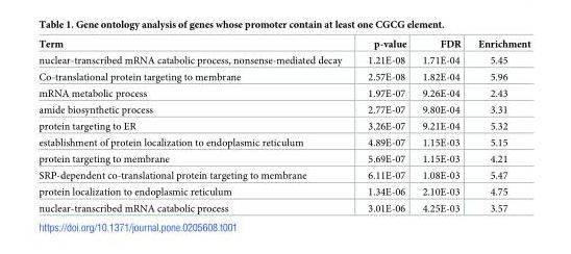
<table><thead><tr><td>Term</td><td>p-value</td><td>FDR</td><td>Enrichment</td></tr></thead><tbody><tr><td>nuclear-transcribed mRNA catabolic process, nonsense-mediated decay</td><td>1.21E-08</td><td>1.71E-04</td><td>5.45</td></tr><tr><td>Co-translational protein targeting to membrane</td><td>2.57E-08</td><td>1.82E-04</td><td>5.96</td></tr><tr><td>mRNA metabolic process</td><td>1.97E-07</td><td>9.26E-04</td><td>2.43</td></tr><tr><td>amide biosynthetic process</td><td>2.77E-07</td><td>9.80E-04</td><td>3.31</td></tr><tr><td>protein targeting to ER</td><td>3.26E-07</td><td>9.21E-04</td><td>5.32</td></tr><tr><td>establishment of protein localization to endoplasmic reticulum</td><td>4.89E-07</td><td>1.15E-03</td><td>5.15</td></tr><tr><td>protein targeting to membrane</td><td>5.69E-07</td><td>1.15E-03</td><td>4.21</td></tr><tr><td>SRP-dependent co-translational protein targeting to membrane</td><td>6.11E-07</td><td>1.08E-03</td><td>5.47</td></tr><tr><td>protein localization to endoplasmic reticulum</td><td>1.34E-06</td><td>2.10E-03</td><td>4.75</td></tr><tr><td>nuclear-transcribed mRNA catabolic process</td><td>3.01E-06</td><td>4.25E-03</td><td>3.57</td></tr></tbody></table>